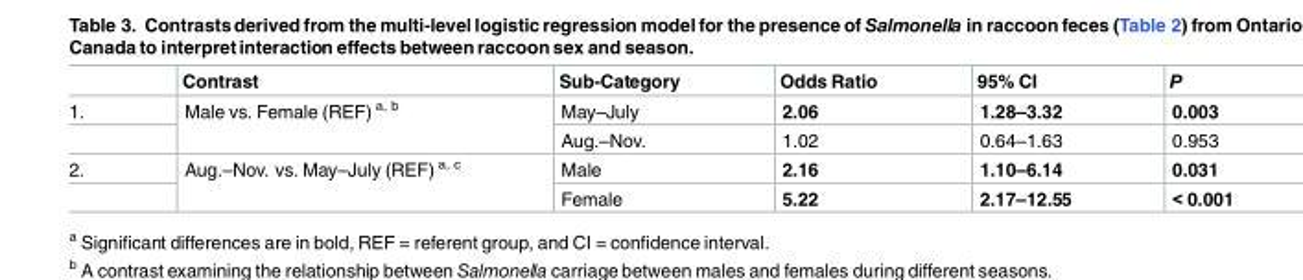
<table><thead><tr><td></td><td>Contrast</td><td>Sub-Category</td><td>Odds Ratio</td><td>95% CI</td><td>P</td></tr></thead><tbody><tr><td rowspan="2">1.</td><td rowspan="2">Male vs. Female (REF) <sup>a, b</sup></td><td>May–July</td><td>2.06</td><td>1.28–3.32</td><td>0.003</td></tr><tr><td>Aug.–Nov.</td><td>1.02</td><td>0.64–1.63</td><td>0.953</td></tr><tr><td rowspan="2">2.</td><td rowspan="2">Aug.–Nov. vs. May–July (REF) <sup>a, c</sup></td><td>Male</td><td>2.16</td><td>1.10–6.14</td><td>0.031</td></tr><tr><td>Female</td><td>5.22</td><td>2.17–12.55</td><td>&lt; 0.001</td></tr></tbody></table>